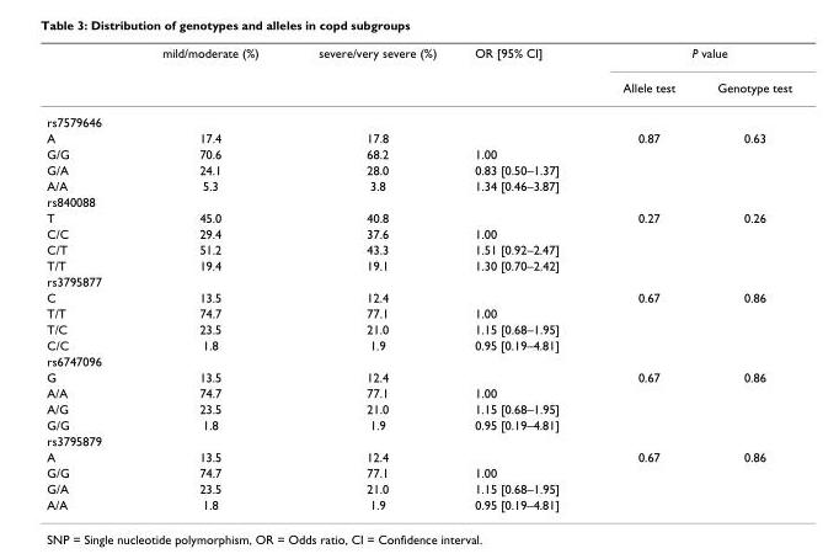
<table><thead><tr><td rowspan="2"></td><td rowspan="2">mild/moderate (%)</td><td rowspan="2">severe/very severe (%)</td><td rowspan="2">OR [95% CI]</td><td colspan="2">P value</td></tr><tr><td>Allele test</td><td>Genotype test</td></tr></thead><tbody><tr><td colspan="6">rs7579646</td></tr><tr><td>A</td><td>17.4</td><td>17.8</td><td></td><td>0.87</td><td>0.63</td></tr><tr><td>G/G</td><td>70.6</td><td>68.2</td><td>1.00</td><td></td><td></td></tr><tr><td>G/A</td><td>24.1</td><td>28.0</td><td>0.83 [0.50–1.37]</td><td></td><td></td></tr><tr><td>A/A</td><td>5.3</td><td>3.8</td><td>1.34 [0.46–3.87]</td><td></td><td></td></tr><tr><td colspan="6">rs840088</td></tr><tr><td>T</td><td>45.0</td><td>40.8</td><td></td><td>0.27</td><td>0.26</td></tr><tr><td>C/C</td><td>29.4</td><td>37.6</td><td>1.00</td><td></td><td></td></tr><tr><td>C/T</td><td>51.2</td><td>43.3</td><td>1.51 [0.92–2.47]</td><td></td><td></td></tr><tr><td>T/T</td><td>19.4</td><td>19.1</td><td>1.30 [0.70–2.42]</td><td></td><td></td></tr><tr><td colspan="6">rs3795877</td></tr><tr><td>C</td><td>13.5</td><td>12.4</td><td></td><td>0.67</td><td>0.86</td></tr><tr><td>T/T</td><td>74.7</td><td>77.1</td><td>1.00</td><td></td><td></td></tr><tr><td>T/C</td><td>23.5</td><td>21.0</td><td>1.15 [0.68–1.95]</td><td></td><td></td></tr><tr><td>C/C</td><td>1.8</td><td>1.9</td><td>0.95 [0.19–4.81]</td><td></td><td></td></tr><tr><td colspan="6">rs6747096</td></tr><tr><td>G</td><td>13.5</td><td>12.4</td><td></td><td>0.67</td><td>0.86</td></tr><tr><td>A/A</td><td>74.7</td><td>77.1</td><td>1.00</td><td></td><td></td></tr><tr><td>A/G</td><td>23.5</td><td>21.0</td><td>1.15 [0.68–1.95]</td><td></td><td></td></tr><tr><td>G/G</td><td>1.8</td><td>1.9</td><td>0.95 [0.19–4.81]</td><td></td><td></td></tr><tr><td colspan="6">rs3795879</td></tr><tr><td>A</td><td>13.5</td><td>12.4</td><td></td><td>0.67</td><td>0.86</td></tr><tr><td>G/G</td><td>74.7</td><td>77.1</td><td>1.00</td><td></td><td></td></tr><tr><td>G/A</td><td>23.5</td><td>21.0</td><td>1.15 [0.68–1.95]</td><td></td><td></td></tr><tr><td>A/A</td><td>1.8</td><td>1.9</td><td>0.95 [0.19–4.81]</td><td></td><td></td></tr></tbody></table>